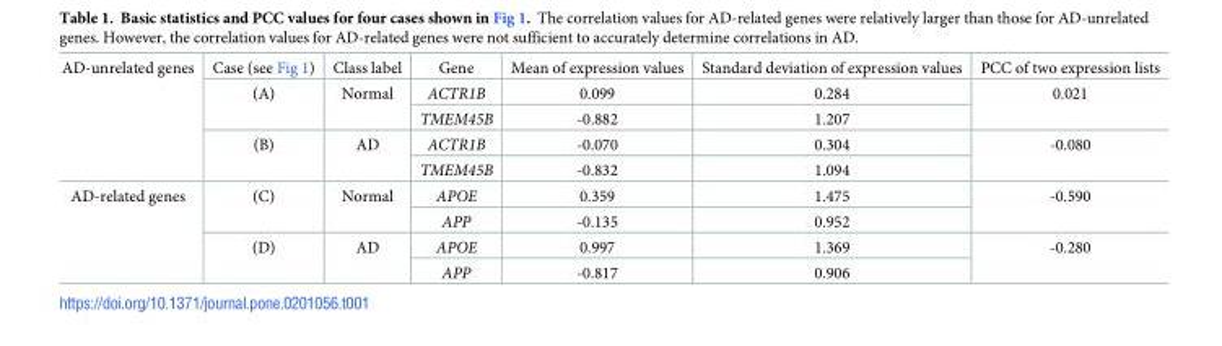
<table><tbody><tr><td rowspan="5">AD-unrelated genes</td><td>Case (see Fig 1)</td><td>Class label</td><td>Gene</td><td>Mean of expression values</td><td>Standard deviation of expression values</td><td>PCC of two expression lists</td></tr><tr><td rowspan="2">(A)</td><td rowspan="2">Normal</td><td>ACTR1B</td><td>0.099</td><td>0.284</td><td rowspan="2">0.021</td></tr><tr><td>TMEM45B</td><td>-0.882</td><td>1.207</td></tr><tr><td rowspan="2">(B)</td><td rowspan="2">AD</td><td>ACTR1B</td><td>-0.070</td><td>0.304</td><td rowspan="2">-0.080</td></tr><tr><td>TMEM45B</td><td>-0.832</td><td>1.094</td></tr><tr><td rowspan="4">AD-related genes</td><td rowspan="2">(C)</td><td rowspan="2">Normal</td><td>APOE</td><td>0.359</td><td>1.475</td><td rowspan="2">-0.590</td></tr><tr><td>APP</td><td>-0.135</td><td>0.952</td></tr><tr><td rowspan="2">(D)</td><td rowspan="2">AD</td><td>APOE</td><td>0.997</td><td>1.369</td><td rowspan="2">-0.280</td></tr><tr><td>APP</td><td>-0.817</td><td>0.906</td></tr></tbody></table>